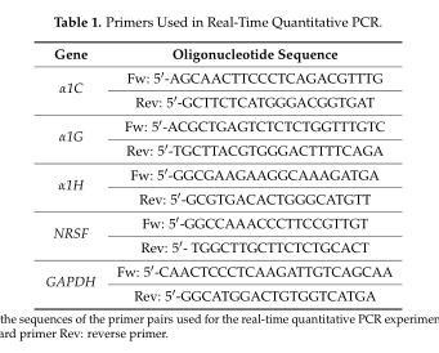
<table><thead><tr><td>Gene</td><td>Oligonucleotide Sequence</td></tr></thead><tbody><tr><td rowspan="2">α1C</td><td>Fw: 5′-AGCAACTTCCCTCAGACGTTTG</td></tr><tr><td>Rev: 5′-GCTTCTCATGGGACGGTGAT</td></tr><tr><td rowspan="2">α1G</td><td>Fw: 5′-ACGCTGAGTCTCTCTGGTTTGTC</td></tr><tr><td>Rev: 5′-TGCTTACGTGGGACTTTTCAGA</td></tr><tr><td rowspan="2">α1H</td><td>Fw: 5′-GGCGAAGAAGGCAAAGATGA</td></tr><tr><td>Rev: 5′-GCGTGACACTGGGCATGTT</td></tr><tr><td rowspan="2">NRSF</td><td>Fw: 5′-GGCCAAACCCTTCCGTTGT</td></tr><tr><td>Rev: 5′- TGGCTTGCTTCTCTGCACT</td></tr><tr><td rowspan="2">GAPDH</td><td>Fw: 5′-CAACTCCCTCAAGATTGTCAGCAA</td></tr><tr><td>Rev: 5′-GGCATGGACTGTGGTCATGA</td></tr></tbody></table>